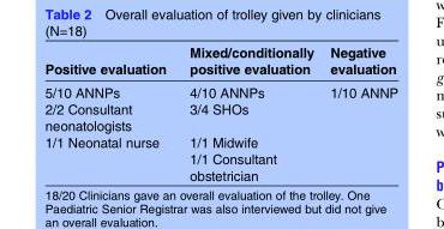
<table><thead><tr><td>Positive evaluation</td><td>Mixed/conditionally positive evaluation</td><td>Negative evaluation</td></tr></thead><tbody><tr><td>5/10 ANNPs</td><td>4/10 ANNPs</td><td>1/10 ANNP</td></tr><tr><td>2/2 Consultant neonatologists</td><td>3/4 SHOs</td><td></td></tr><tr><td rowspan="2">1/1 Neonatal nurse</td><td>1/1 Midwife</td><td></td></tr><tr><td>1/1 Consultant obstetrician</td><td></td></tr></tbody></table>